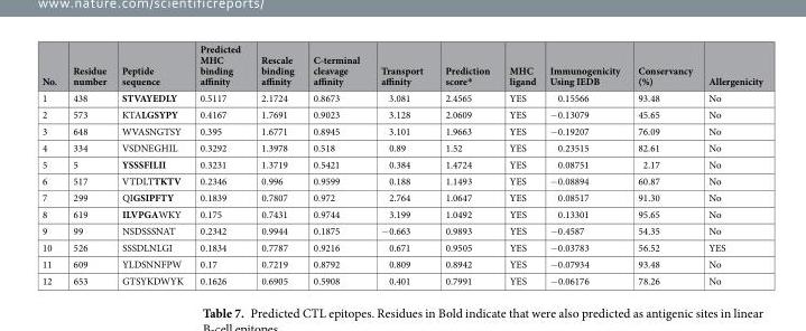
<table><thead><tr><td>No.</td><td>Residue number</td><td>Peptide sequence</td><td>Predicted MHC binding affinity</td><td>Rescale binding affinity</td><td>C-terminal cleavage affinity</td><td>Transport affinity</td><td>Prediction score*</td><td>MHC ligand</td><td>Immunogenicity Using IEDB</td><td>Conservancy (%)</td><td>Allergenicity</td></tr></thead><tbody><tr><td>1</td><td>438</td><td>STVAYEDLY</td><td>0.5117</td><td>2.1724</td><td>0.8673</td><td>3.081</td><td>2.4565</td><td>YES</td><td>0.15566</td><td>93.48</td><td>No</td></tr><tr><td>2</td><td>573</td><td>KTALGSYPY</td><td>0.4167</td><td>1.7691</td><td>0.9023</td><td>3.128</td><td>2.0609</td><td>YES</td><td>−0.13079</td><td>45.65</td><td>No</td></tr><tr><td>3</td><td>648</td><td>WVASNGTSY</td><td>0.395</td><td>1.6771</td><td>0.8945</td><td>3.101</td><td>1.9663</td><td>YES</td><td>−0.19207</td><td>76.09</td><td>No</td></tr><tr><td>4</td><td>334</td><td>VSDNEGHIL</td><td>0.3292</td><td>1.3978</td><td>0.518</td><td>0.89</td><td>1.52</td><td>YES</td><td>0.23515</td><td>82.61</td><td>No</td></tr><tr><td>5</td><td>5</td><td>YSSSFILII</td><td>0.3231</td><td>1.3719</td><td>0.5421</td><td>0.384</td><td>1.4724</td><td>YES</td><td>0.08751</td><td>2.17</td><td>No</td></tr><tr><td>6</td><td>517</td><td>VTDLTTKTV</td><td>0.2346</td><td>0.996</td><td>0.9599</td><td>0.188</td><td>1.1493</td><td>YES</td><td>−0.08894</td><td>60.87</td><td>No</td></tr><tr><td>7</td><td>299</td><td>QIGSIPFTY</td><td>0.1839</td><td>0.7807</td><td>0.972</td><td>2.764</td><td>1.0647</td><td>YES</td><td>0.08517</td><td>91.30</td><td>No</td></tr><tr><td>8</td><td>619</td><td>ILVPGAWKY</td><td>0.175</td><td>0.7431</td><td>0.9744</td><td>3.199</td><td>1.0492</td><td>YES</td><td>0.13301</td><td>95.65</td><td>No</td></tr><tr><td>9</td><td>99</td><td>NSDSSSNAT</td><td>0.2342</td><td>0.9944</td><td>0.1875</td><td>−0.663</td><td>0.9893</td><td>YES</td><td>−0.4587</td><td>54.35</td><td>No</td></tr><tr><td>10</td><td>526</td><td>SSSDLNLGI</td><td>0.1834</td><td>0.7787</td><td>0.9216</td><td>0.671</td><td>0.9505</td><td>YES</td><td>−0.03783</td><td>56.52</td><td>YES</td></tr><tr><td>11</td><td>609</td><td>YLDSNNFPW</td><td>0.17</td><td>0.7219</td><td>0.8792</td><td>0.809</td><td>0.8942</td><td>YES</td><td>−0.07934</td><td>93.48</td><td>No</td></tr><tr><td>12</td><td>653</td><td>GTSYKDWYK</td><td>0.1626</td><td>0.6905</td><td>0.5908</td><td>0.401</td><td>0.7991</td><td>YES</td><td>−0.06176</td><td>78.26</td><td>No</td></tr></tbody></table>